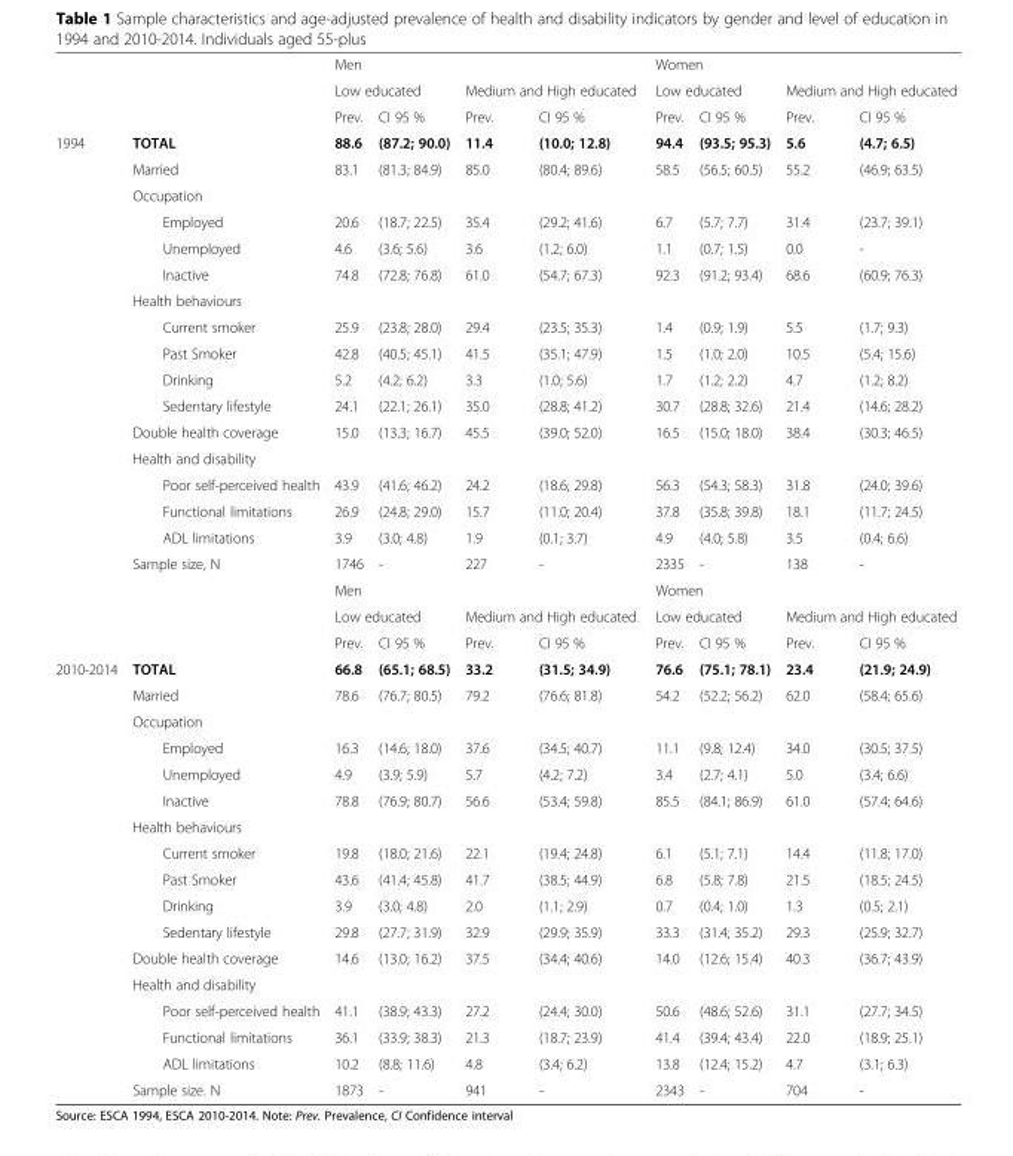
<table><thead><tr><td rowspan="3"></td><td rowspan="3"></td><td colspan="4">Men</td><td colspan="4">Women</td></tr><tr><td colspan="2">Low educated</td><td colspan="2">Medium and High educated</td><td colspan="2">Low educated</td><td colspan="2">Medium and High educated</td></tr><tr><td>Prev.</td><td>CI 95 %</td><td>Prev.</td><td>CI 95 %</td><td>Prev.</td><td>CI 95 %</td><td>Prev.</td><td>CI 95 %</td></tr></thead><tbody><tr><td rowspan="17">1994</td><td>TOTAL</td><td>88.6</td><td>(87.2; 90.0)</td><td>11.4</td><td>(10.0; 12.8)</td><td>94.4</td><td>(93.5; 95.3)</td><td>5.6</td><td>(4.7; 6.5)</td></tr><tr><td>Married</td><td>83.1</td><td>(81.3; 84.9)</td><td>85.0</td><td>(80.4; 89.6)</td><td>58.5</td><td>(56.5; 60.5)</td><td>55.2</td><td>(46.9; 63.5)</td></tr><tr><td colspan="9">Occupation</td></tr><tr><td>Employed</td><td>20.6</td><td>(18.7; 22.5)</td><td>35.4</td><td>(29.2; 41.6)</td><td>6.7</td><td>(5.7; 7.7)</td><td>31.4</td><td>(23.7; 39.1)</td></tr><tr><td>Unemployed</td><td>4.6</td><td>(3.6; 5.6)</td><td>3.6</td><td>(1.2; 6.0)</td><td>1.1</td><td>(0.7; 1.5)</td><td>0.0</td><td>-</td></tr><tr><td>Inactive</td><td>74.8</td><td>(72.8; 76.8)</td><td>61.0</td><td>(54.7; 67.3)</td><td>92.3</td><td>(91.2; 93.4)</td><td>68.6</td><td>(60.9; 76.3)</td></tr><tr><td colspan="9">Health behaviours</td></tr><tr><td>Current smoker</td><td>25.9</td><td>(23.8; 28.0)</td><td>29.4</td><td>(23.5; 35.3)</td><td>1.4</td><td>(0.9; 1.9)</td><td>5.5</td><td>(1.7; 9.3)</td></tr><tr><td>Past Smoker</td><td>42.8</td><td>(40.5; 45.1)</td><td>41.5</td><td>(35.1; 47.9)</td><td>1.5</td><td>(1.0; 2.0)</td><td>10.5</td><td>(5.4; 15.6)</td></tr><tr><td>Drinking</td><td>5.2</td><td>(4.2; 6.2)</td><td>3.3</td><td>(1.0; 5.6)</td><td>1.7</td><td>(1.2; 2.2)</td><td>4.7</td><td>(1.2; 8.2)</td></tr><tr><td>Sedentary lifestyle</td><td>24.1</td><td>(22.1; 26.1)</td><td>35.0</td><td>(28.8; 41.2)</td><td>30.7</td><td>(28.8; 32.6)</td><td>21.4</td><td>(14.6; 28.2)</td></tr><tr><td>Double health coverage</td><td>15.0</td><td>(13.3; 16.7)</td><td>45.5</td><td>(39.0; 52.0)</td><td>16.5</td><td>(15.0; 18.0)</td><td>38.4</td><td>(30.3; 46.5)</td></tr><tr><td colspan="9">Health and disability</td></tr><tr><td>Poor self-perceived health</td><td>43.9</td><td>(41.6; 46.2)</td><td>24.2</td><td>(18.6; 29.8)</td><td>56.3</td><td>(54.3; 58.3)</td><td>31.8</td><td>(24.0; 39.6)</td></tr><tr><td>Functional limitations</td><td>26.9</td><td>(24.8; 29.0)</td><td>15.7</td><td>(11.0; 20.4)</td><td>37.8</td><td>(35.8; 39.8)</td><td>18.1</td><td>(11.7; 24.5)</td></tr><tr><td>ADL limitations</td><td>3.9</td><td>(3.0; 4.8)</td><td>1.9</td><td>(0.1; 3.7)</td><td>4.9</td><td>(4.0; 5.8)</td><td>3.5</td><td>(0.4; 6.6)</td></tr><tr><td>Sample size, N</td><td>1746</td><td>-</td><td>227</td><td>-</td><td>2335</td><td>-</td><td>138</td><td>-</td></tr><tr><td rowspan="3" colspan="2"></td><td colspan="4">Men</td><td colspan="4">Women</td></tr><tr><td colspan="2">Low educated</td><td colspan="2">Medium and High educated</td><td colspan="2">Low educated</td><td colspan="2">Medium and High educated</td></tr><tr><td>Prev.</td><td>CI 95 %</td><td>Prev.</td><td>CI 95 %</td><td>Prev.</td><td>CI 95 %</td><td>Prev.</td><td>CI 95 %</td></tr><tr><td rowspan="17">2010-2014</td><td>TOTAL</td><td>66.8</td><td>(65.1; 68.5)</td><td>33.2</td><td>(31.5; 34.9)</td><td>76.6</td><td>(75.1; 78.1)</td><td>23.4</td><td>(21.9; 24.9)</td></tr><tr><td>Married</td><td>78.6</td><td>(76.7; 80.5)</td><td>79.2</td><td>(76.6; 81.8)</td><td>54.2</td><td>(52.2; 56.2)</td><td>62.0</td><td>(58.4; 65.6)</td></tr><tr><td colspan="9">Occupation</td></tr><tr><td>Employed</td><td>16.3</td><td>(14.6; 18.0)</td><td>37.6</td><td>(34.5; 40.7)</td><td>11.1</td><td>(9.8; 12.4)</td><td>34.0</td><td>(30.5; 37.5)</td></tr><tr><td>Unemployed</td><td>4.9</td><td>(3.9; 5.9)</td><td>5.7</td><td>(4.2; 7.2)</td><td>3.4</td><td>(2.7; 4.1)</td><td>5.0</td><td>(3.4; 6.6)</td></tr><tr><td>Inactive</td><td>78.8</td><td>(76.9; 80.7)</td><td>56.6</td><td>(53.4; 59.8)</td><td>85.5</td><td>(84.1; 86.9)</td><td>61.0</td><td>(57.4; 64.6)</td></tr><tr><td colspan="9">Health behaviours</td></tr><tr><td>Current smoker</td><td>19.8</td><td>(18.0; 21.6)</td><td>22.1</td><td>(19.4; 24.8)</td><td>6.1</td><td>(5.1; 7.1)</td><td>14.4</td><td>(11.8; 17.0)</td></tr><tr><td>Past Smoker</td><td>43.6</td><td>(41.4; 45.8)</td><td>41.7</td><td>(38.5; 44.9)</td><td>6.8</td><td>(5.8; 7.8)</td><td>21.5</td><td>(18.5; 24.5)</td></tr><tr><td>Drinking</td><td>3.9</td><td>(3.0; 4.8)</td><td>2.0</td><td>(1.1; 2.9)</td><td>0.7</td><td>(0.4; 1.0)</td><td>1.3</td><td>(0.5; 2.1)</td></tr><tr><td>Sedentary lifestyle</td><td>29.8</td><td>(27.7; 31.9)</td><td>32.9</td><td>(29.9; 35.9)</td><td>33.3</td><td>(31.4; 35.2)</td><td>29.3</td><td>(25.9; 32.7)</td></tr><tr><td>Double health coverage</td><td>14.6</td><td>(13.0; 16.2)</td><td>37.5</td><td>(34.4; 40.6)</td><td>14.0</td><td>(12.6; 15.4)</td><td>40.3</td><td>(36.7; 43.9)</td></tr><tr><td colspan="9">Health and disability</td></tr><tr><td>Poor self-perceived health</td><td>41.1</td><td>(38.9; 43.3)</td><td>27.2</td><td>(24.4; 30.0)</td><td>50.6</td><td>(48.6; 52.6)</td><td>31.1</td><td>(27.7; 34.5)</td></tr><tr><td>Functional limitations</td><td>36.1</td><td>(33.9; 38.3)</td><td>21.3</td><td>(18.7; 23.9)</td><td>41.4</td><td>(39.4; 43.4)</td><td>22.0</td><td>(18.9; 25.1)</td></tr><tr><td>ADL limitations</td><td>10.2</td><td>(8.8; 11.6)</td><td>4.8</td><td>(3.4; 6.2)</td><td>13.8</td><td>(12.4; 15.2)</td><td>4.7</td><td>(3.1; 6.3)</td></tr><tr><td>Sample size. N</td><td>1873</td><td>-</td><td>941</td><td>-</td><td>2343</td><td>-</td><td>704</td><td>-</td></tr></tbody></table>